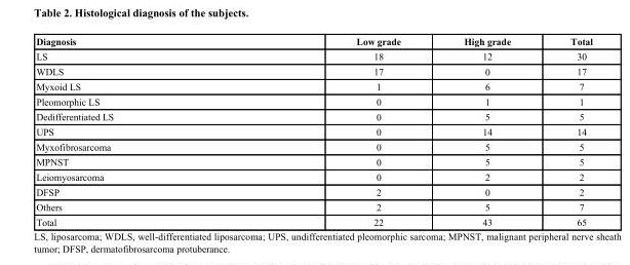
<table><thead><tr><td>Diagnosis</td><td>Low grade</td><td>High grade</td><td>Total</td></tr></thead><tbody><tr><td>LS</td><td>18</td><td>12</td><td>30</td></tr><tr><td>WDLS</td><td>17</td><td>0</td><td>17</td></tr><tr><td>Myxoid LS</td><td>1</td><td>6</td><td>7</td></tr><tr><td>Pleomorphic LS</td><td>0</td><td>1</td><td>1</td></tr><tr><td>Dedifferentiated LS</td><td>0</td><td>5</td><td>5</td></tr><tr><td>UPS</td><td>0</td><td>14</td><td>14</td></tr><tr><td>Myxofibrosarcoma</td><td>0</td><td>5</td><td>5</td></tr><tr><td>MPNST</td><td>0</td><td>5</td><td>5</td></tr><tr><td>Leiomyosarcoma</td><td>0</td><td>2</td><td>2</td></tr><tr><td>DFSP</td><td>2</td><td>0</td><td>2</td></tr><tr><td>Others</td><td>2</td><td>5</td><td>7</td></tr><tr><td>Total</td><td>22</td><td>43</td><td>65</td></tr></tbody></table>